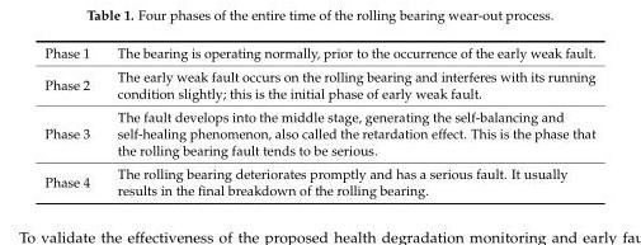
<table><tbody><tr><td>Phase 1</td><td>The bearing is operating normally, prior to the occurrence of the early weak fault.</td></tr><tr><td>Phase 2</td><td>The early weak fault occurs on the rolling bearing and interferes with its running condition slightly; this is the initial phase of early weak fault.</td></tr><tr><td>Phase 3</td><td>The fault develops into the middle stage, generating the self-balancing and self-healing phenomenon, also called the retardation effect. This is the phase that the rolling bearing fault tends to be serious.</td></tr><tr><td>Phase 4</td><td>The rolling bearing deteriorates promptly and has a serious fault. It usually results in the final breakdown of the rolling bearing.</td></tr></tbody></table>